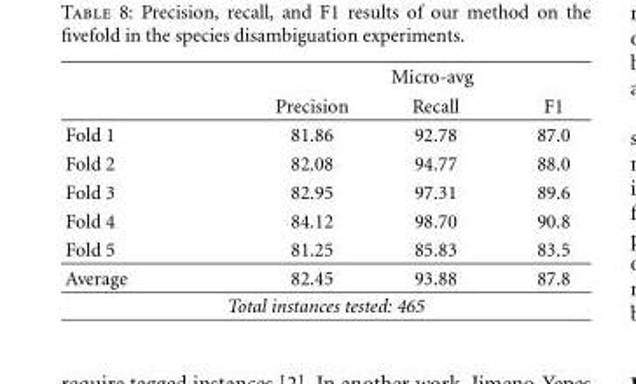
<table><thead><tr><td rowspan="2"></td><td colspan="3">Micro-avg</td></tr><tr><td>Precision</td><td>Recall</td><td>F1</td></tr></thead><tbody><tr><td>Fold 1</td><td>81.86</td><td>92.78</td><td>87.0</td></tr><tr><td>Fold 2</td><td>82.08</td><td>94.77</td><td>88.0</td></tr><tr><td>Fold 3</td><td>82.95</td><td>97.31</td><td>89.6</td></tr><tr><td>Fold 4</td><td>84.12</td><td>98.70</td><td>90.8</td></tr><tr><td>Fold 5</td><td>81.25</td><td>85.83</td><td>83.5</td></tr><tr><td>Average</td><td>82.45</td><td>93.88</td><td>87.8</td></tr><tr><td colspan="4">Total instances tested: 465</td></tr></tbody></table>